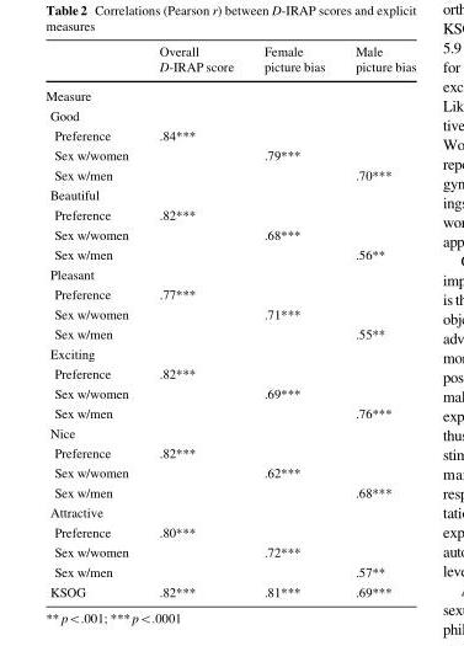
<table><thead><tr><td></td><td>Overall D-IRAP score</td><td>Female picture bias</td><td>Male picture bias</td></tr></thead><tbody><tr><td colspan="4">Measure</td></tr><tr><td colspan="4">Good</td></tr><tr><td>Preference</td><td>.84***</td><td></td><td></td></tr><tr><td>Sex w/women</td><td></td><td>.79***</td><td></td></tr><tr><td>Sex w/men</td><td></td><td></td><td>.70***</td></tr><tr><td colspan="4">Beautiful</td></tr><tr><td>Preference</td><td>.82***</td><td></td><td></td></tr><tr><td>Sex w/women</td><td></td><td>.68***</td><td></td></tr><tr><td>Sex w/men</td><td></td><td></td><td>.56**</td></tr><tr><td colspan="4">Pleasant</td></tr><tr><td>Preference</td><td>.77***</td><td></td><td></td></tr><tr><td>Sex w/women</td><td></td><td>.71***</td><td></td></tr><tr><td>Sex w/men</td><td></td><td></td><td>.55**</td></tr><tr><td colspan="4">Exciting</td></tr><tr><td>Preference</td><td>.82***</td><td></td><td></td></tr><tr><td>Sex w/women</td><td></td><td>.69***</td><td></td></tr><tr><td>Sex w/men</td><td></td><td></td><td>.76***</td></tr><tr><td colspan="4">Nice</td></tr><tr><td>Preference</td><td>.82***</td><td></td><td></td></tr><tr><td>Sex w/women</td><td></td><td>.62***</td><td></td></tr><tr><td>Sex w/men</td><td></td><td></td><td>.68***</td></tr><tr><td colspan="4">Attractive</td></tr><tr><td>Preference</td><td>.80***</td><td></td><td></td></tr><tr><td>Sex w/women</td><td></td><td>.72***</td><td></td></tr><tr><td>Sex w/men</td><td></td><td></td><td>.57**</td></tr><tr><td>KSOG</td><td>.82***</td><td>.81***</td><td>.69***</td></tr></tbody></table>